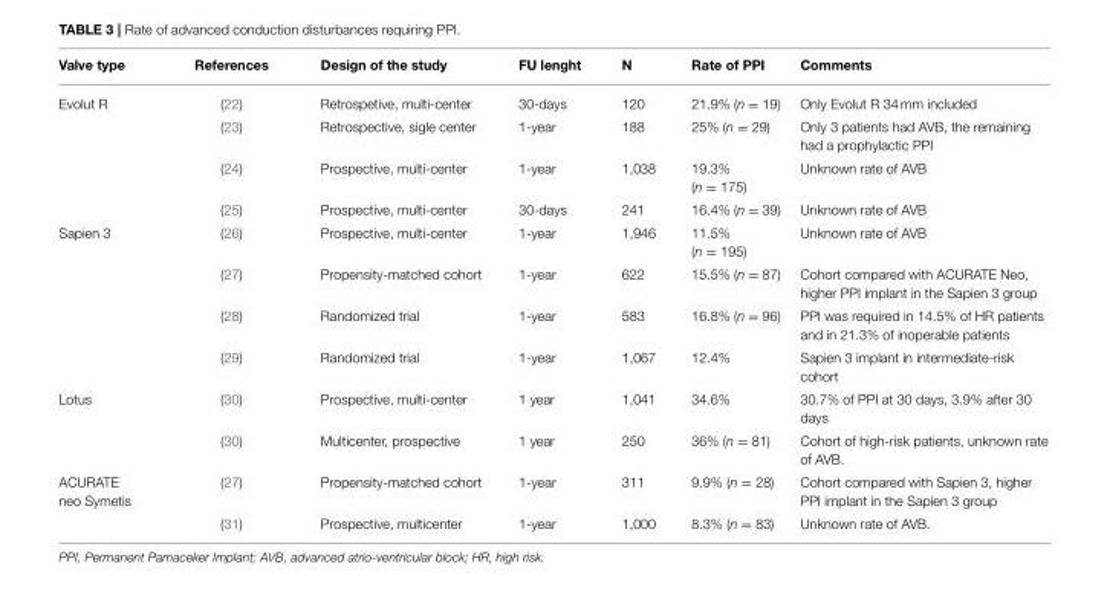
<table><thead><tr><td>Valve type</td><td>References</td><td>Design of the study</td><td>FU lenght</td><td>N</td><td>Rate of PPI</td><td>Comments</td></tr></thead><tbody><tr><td rowspan="4">Evolut R</td><td>(22)</td><td>Retrospetive, multi-center</td><td>30-days</td><td>120</td><td>21.9% (n = 19)</td><td>Only Evolut R 34 mm included</td></tr><tr><td>(23)</td><td>Retrospective, sigle center</td><td>1-year</td><td>188</td><td>25% (n = 29)</td><td>Only 3 patients had AVB, the remaining had a prophylactic PPI</td></tr><tr><td>(24)</td><td>Prospective, multi-center</td><td>1-year</td><td>1,038</td><td>19.3% (n = 175)</td><td>Unknown rate of AVB</td></tr><tr><td>(25)</td><td>Prospective, multi-center</td><td>30-days</td><td>241</td><td>16.4% (n = 39)</td><td>Unknown rate of AVB</td></tr><tr><td rowspan="4">Sapien 3</td><td>(26)</td><td>Prospective, multi-center</td><td>1-year</td><td>1,946</td><td>11.5% (n = 195)</td><td>Unknown rate of AVB</td></tr><tr><td>(27)</td><td>Propensity-matched cohort</td><td>1-year</td><td>622</td><td>15.5% (n = 87)</td><td>Cohort compared with ACURATE Neo, higher PPI implant in the Sapien 3 group</td></tr><tr><td>(28)</td><td>Randomized trial</td><td>1-year</td><td>583</td><td>16.8% (n = 96)</td><td>PPI was required in 14.5% of HR patients and in 21.3% of inoperable patients</td></tr><tr><td>(29)</td><td>Randomized trial</td><td>1-year</td><td>1,067</td><td>12.4%</td><td>Sapien 3 implant in intermediate-risk cohort</td></tr><tr><td rowspan="2">Lotus</td><td>(30)</td><td>Prospective, multi-center</td><td>1 year</td><td>1,041</td><td>34.6%</td><td>30.7% of PPI at 30 days, 3.9% after 30 days</td></tr><tr><td>(30)</td><td>Multicenter, prospective</td><td>1 year</td><td>250</td><td>36% (n = 81)</td><td>Cohort of high-risk patients, unknown rate of AVB.</td></tr><tr><td rowspan="2">ACURATE neo Symetis</td><td>(27)</td><td>Propensity-matched cohort</td><td>1-year</td><td>311</td><td>9.9% (n = 28)</td><td>Cohort compared with Sapien 3, higher PPI implant in the Sapien 3 group</td></tr><tr><td>(31)</td><td>Prospective, multicenter</td><td>1-year</td><td>1,000</td><td>8.3% (n = 83)</td><td>Unknown rate of AVB.</td></tr></tbody></table>